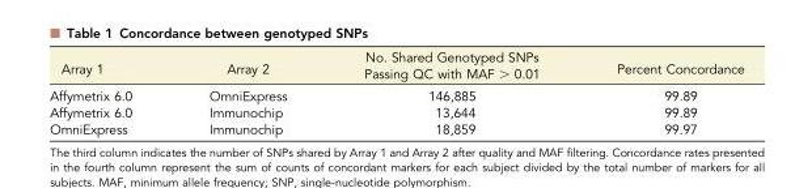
<table><thead><tr><td>Array 1</td><td>Array 2</td><td>No. Shared Genotyped SNPs Passing QC with MAF &gt; 0.01</td><td>Percent Concordance</td></tr></thead><tbody><tr><td>Affymetrix 6.0</td><td>OmniExpress</td><td>146,885</td><td>99.89</td></tr><tr><td>Affymetrix 6.0</td><td>Immunochip</td><td>13,644</td><td>99.89</td></tr><tr><td>OmniExpress</td><td>Immunochip</td><td>18,859</td><td>99.97</td></tr></tbody></table>